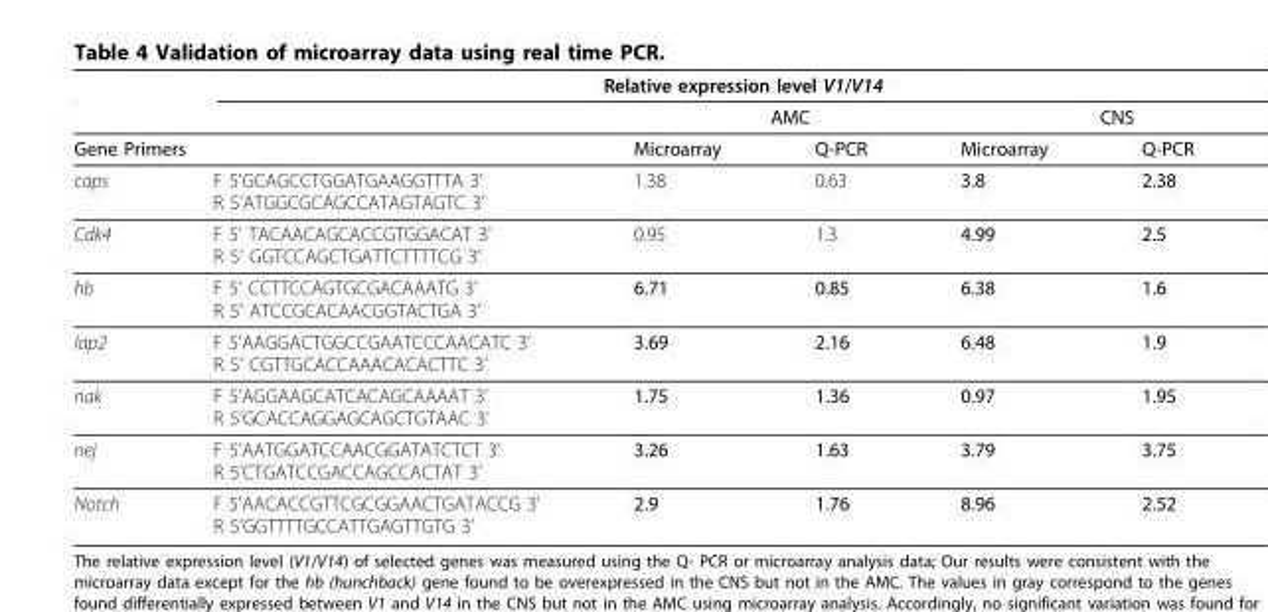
<table><thead><tr><td rowspan="2"></td><td colspan="5">Relative expression level V1/V14</td></tr><tr><td></td><td colspan="2">AMC</td><td colspan="2">CNS</td></tr><tr><td colspan="2">Gene Primers</td><td>Microarray</td><td>Q-PCR</td><td>Microarray</td><td>Q-PCR</td></tr></thead><tbody><tr><td>caps</td><td>F 5’GCAGCCTGGATGAAGGTTTA 3’ R 5’ATGGCGCAGCCATAGTAGTC 3’</td><td>1.38</td><td>0.63</td><td>3.8</td><td>2.38</td></tr><tr><td>Cdk4</td><td>F 5’ TACAACAGCACCGTGGACAT 3’ R 5’ GGTCCAGCTGATTCTTTTCG 3’</td><td>0.95</td><td>1.3</td><td>4.99</td><td>2.5</td></tr><tr><td>hb</td><td>F 5’ CCTTCCAGTGCGACAAATG 3’ R 5’ ATCCGCACAACGGTACTGA 3’</td><td>6.71</td><td>0.85</td><td>6.38</td><td>1.6</td></tr><tr><td>Iap2</td><td>F 5’AAGGACTGGCCGAATCCCAACATC 3’ R 5’ CGTTGCACCAAACACACTTC 3’</td><td>3.69</td><td>2.16</td><td>6.48</td><td>1.9</td></tr><tr><td>nak</td><td>F 5’AGGAAGCATCACAGCAAAAT 3’ R 5’GCACCAGGAGCAGCTGTAAC 3’</td><td>1.75</td><td>1.36</td><td>0.97</td><td>1.95</td></tr><tr><td>nej</td><td>F 5’AATGGATCCAACGGATATCTCT 3’ R 5’CTGATCCGACCAGCCACTAT 3’</td><td>3.26</td><td>1.63</td><td>3.79</td><td>3.75</td></tr><tr><td>Notch</td><td>F 5’AACACCGTTCGCGGAACTGATACCG 3’ R 5’GGTTTTGCCATTGAGTTGTG 3’</td><td>2.9</td><td>1.76</td><td>8.96</td><td>2.52</td></tr></tbody></table>